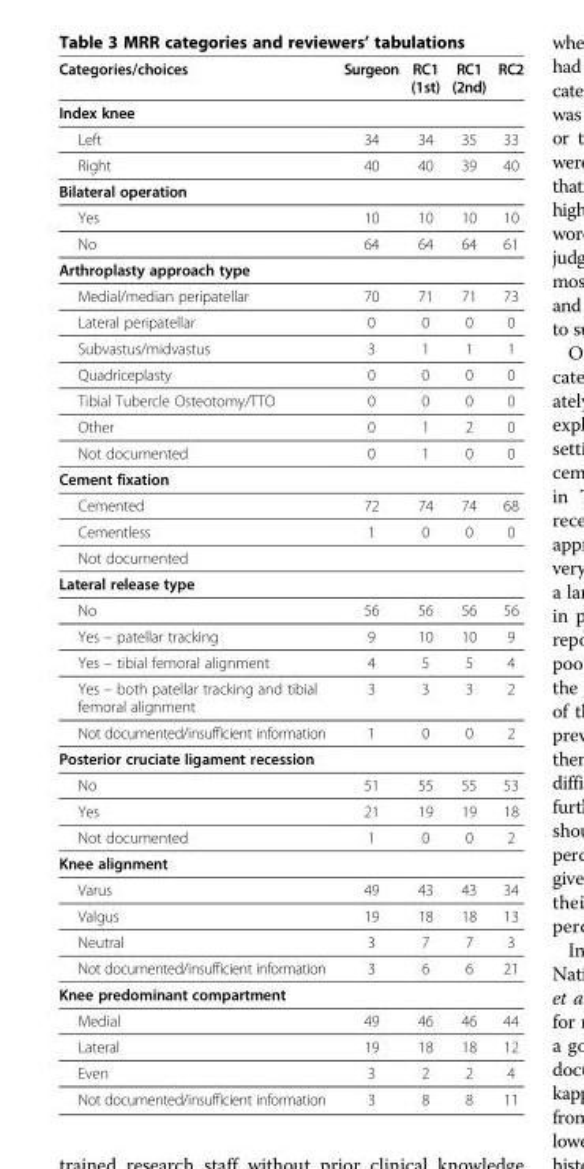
<table><thead><tr><td>Categories/choices</td><td>Surgeon</td><td>RC1 (1st)</td><td>RC1 (2nd)</td><td>RC2</td></tr></thead><tbody><tr><td colspan="5">Index knee</td></tr><tr><td>Left</td><td>34</td><td>34</td><td>35</td><td>33</td></tr><tr><td>Right</td><td>40</td><td>40</td><td>39</td><td>40</td></tr><tr><td colspan="5">Bilateral operation</td></tr><tr><td>Yes</td><td>10</td><td>10</td><td>10</td><td>10</td></tr><tr><td>No</td><td>64</td><td>64</td><td>64</td><td>61</td></tr><tr><td colspan="5">Arthroplasty approach type</td></tr><tr><td>Medial/median peripatellar</td><td>70</td><td>71</td><td>71</td><td>73</td></tr><tr><td>Lateral peripatellar</td><td>0</td><td>0</td><td>0</td><td>0</td></tr><tr><td>Subvastus/midvastus</td><td>3</td><td>1</td><td>1</td><td>1</td></tr><tr><td>Quadriceplasty</td><td>0</td><td>0</td><td>0</td><td>0</td></tr><tr><td>Tibial Tubercle Osteotomy/TTO</td><td>0</td><td>0</td><td>0</td><td>0</td></tr><tr><td>Other</td><td>0</td><td>1</td><td>2</td><td>0</td></tr><tr><td>Not documented</td><td>0</td><td>1</td><td>0</td><td>0</td></tr><tr><td colspan="5">Cement fixation</td></tr><tr><td>Cemented</td><td>72</td><td>74</td><td>74</td><td>68</td></tr><tr><td>Cementless</td><td>1</td><td>0</td><td>0</td><td>0</td></tr><tr><td colspan="5">Not documented</td></tr><tr><td colspan="5">Lateral release type</td></tr><tr><td>No</td><td>56</td><td>56</td><td>56</td><td>56</td></tr><tr><td>Yes – patellar tracking</td><td>9</td><td>10</td><td>10</td><td>9</td></tr><tr><td>Yes – tibial femoral alignment</td><td>4</td><td>5</td><td>5</td><td>4</td></tr><tr><td>Yes – both patellar tracking and tibial femoral alignment</td><td>3</td><td>3</td><td>3</td><td>2</td></tr><tr><td>Not documented/insufficient information</td><td>1</td><td>0</td><td>0</td><td>2</td></tr><tr><td colspan="5">Posterior cruciate ligament recession</td></tr><tr><td>No</td><td>51</td><td>55</td><td>55</td><td>53</td></tr><tr><td>Yes</td><td>21</td><td>19</td><td>19</td><td>18</td></tr><tr><td>Not documented</td><td>1</td><td>0</td><td>0</td><td>2</td></tr><tr><td colspan="5">Knee alignment</td></tr><tr><td>Varus</td><td>49</td><td>43</td><td>43</td><td>34</td></tr><tr><td>Valgus</td><td>19</td><td>18</td><td>18</td><td>13</td></tr><tr><td>Neutral</td><td>3</td><td>7</td><td>7</td><td>3</td></tr><tr><td>Not documented/insufficient information</td><td>3</td><td>6</td><td>6</td><td>21</td></tr><tr><td colspan="5">Knee predominant compartment</td></tr><tr><td>Medial</td><td>49</td><td>46</td><td>46</td><td>44</td></tr><tr><td>Lateral</td><td>19</td><td>18</td><td>18</td><td>12</td></tr><tr><td>Even</td><td>3</td><td>2</td><td>2</td><td>4</td></tr><tr><td>Not documented/insufficient information</td><td>3</td><td>8</td><td>8</td><td>11</td></tr></tbody></table>